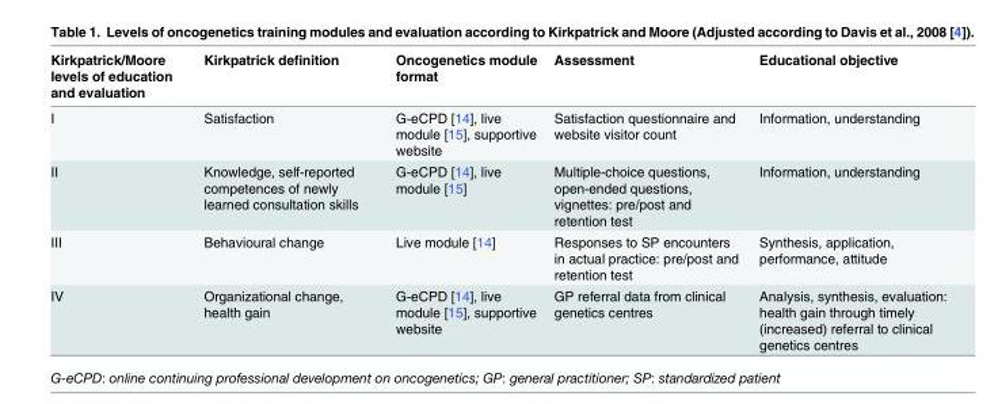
<table><thead><tr><td>Kirkpatrick/Moore levels of education and evaluation</td><td>Kirkpatrick definition</td><td>Oncogenetics module format</td><td>Assessment</td><td>Educational objective</td></tr></thead><tbody><tr><td>I</td><td>Satisfaction</td><td>G-eCPD [14], live module [15], supportive website</td><td>Satisfaction questionnaire and website visitor count</td><td>Information, understanding</td></tr><tr><td>II</td><td>Knowledge, self-reported competences of newly learned consultation skills</td><td>G-eCPD [14], live module [15]</td><td>Multiple-choice questions, open-ended questions, vignettes: pre/post and retention test</td><td>Information, understanding</td></tr><tr><td>III</td><td>Behavioural change</td><td>Live module [14]</td><td>Responses to SP encounters in actual practice: pre/post and retention test</td><td>Synthesis, application, performance, attitude</td></tr><tr><td>IV</td><td>Organizational change, health gain</td><td>G-eCPD [14], live module [15], supportive website</td><td>GP referral data from clinical genetics centres</td><td>Analysis, synthesis, evaluation: health gain through timely (increased) referral to clinical genetics centres</td></tr></tbody></table>